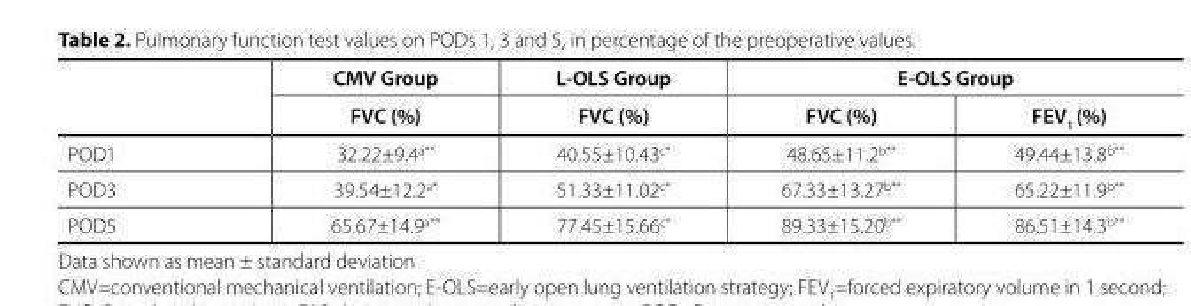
<table><thead><tr><td rowspan="2"></td><td rowspan="2">CMV Group FVC (%)</td><td rowspan="2">L-OLS Group FVC (%)</td><td colspan="2">E-OLS Group</td></tr><tr><td>FVC (%)</td><td>FEV<sub>1</sub> (%)</td></tr></thead><tbody><tr><td>POD1</td><td>32.22±9.4<sup>a**</sup></td><td>40.55±10.43<sup>c*</sup></td><td>48.65±11.2<sup>b**</sup></td><td>49.44±13.8<sup>b**</sup></td></tr><tr><td>POD3</td><td>39.54±12.2<sup>a*</sup></td><td>51.33±11.02<sup>c*</sup></td><td>67.33±13.27<sup>b**</sup></td><td>65.22±11.9<sup>b**</sup></td></tr><tr><td>POD5</td><td>65.67±14.9<sup>a**</sup></td><td>77.45±15.66<sup>c*</sup></td><td>89.33±15.20<sup>b**</sup></td><td>86.51±14.3<sup>b**</sup></td></tr></tbody></table>